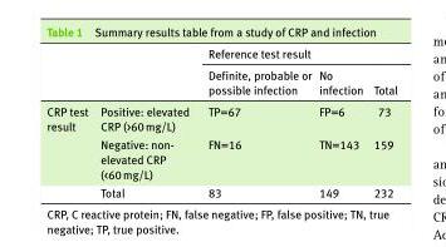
<table><thead><tr><td rowspan="2"></td><td rowspan="2"></td><td colspan="3">Reference test result</td></tr><tr><td>Definite, probable or possible infection</td><td>No infection</td><td>Total</td></tr></thead><tbody><tr><td rowspan="3">CRP test result</td><td>Positive: elevated CRP (&gt;60 mg/L)</td><td>TP=67</td><td>FP=6</td><td>73</td></tr><tr><td>Negative: non- elevated CRP (&lt;60 mg/L)</td><td>FN=16</td><td>TN=143</td><td>159</td></tr><tr><td>Total</td><td>83</td><td>149</td><td>232</td></tr></tbody></table>